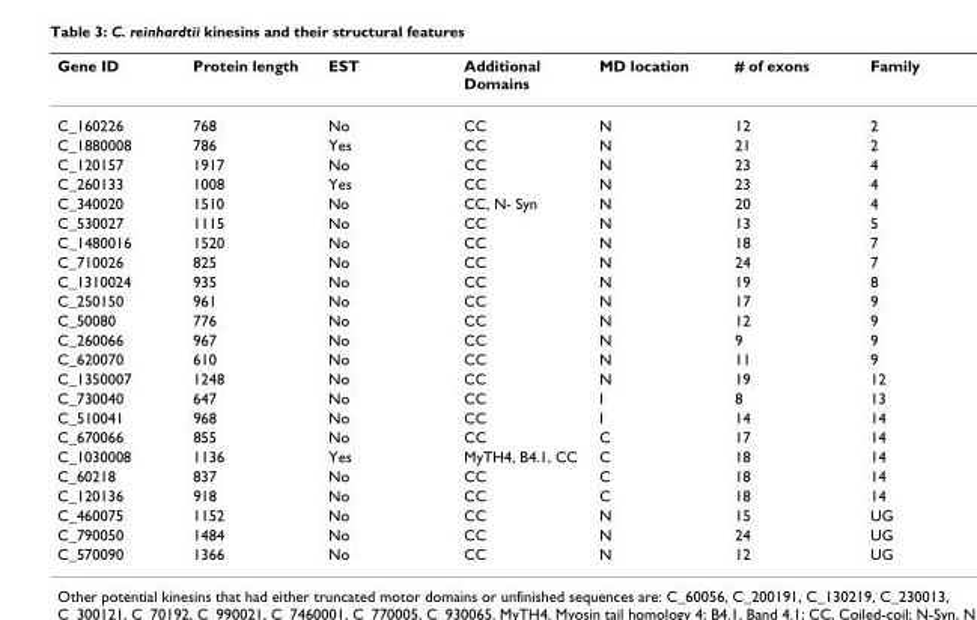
<table><thead><tr><td>Gene ID</td><td>Protein length</td><td>EST</td><td>Additional Domains</td><td>MD location</td><td># of exons</td><td>Family</td></tr></thead><tbody><tr><td>C_160226</td><td>768</td><td>No</td><td>CC</td><td>N</td><td>12</td><td>2</td></tr><tr><td>C_1880008</td><td>786</td><td>Yes</td><td>CC</td><td>N</td><td>21</td><td>2</td></tr><tr><td>C_120157</td><td>1917</td><td>No</td><td>CC</td><td>N</td><td>23</td><td>4</td></tr><tr><td>C_260133</td><td>1008</td><td>Yes</td><td>CC</td><td>N</td><td>23</td><td>4</td></tr><tr><td>C_340020</td><td>1510</td><td>No</td><td>CC, N- Syn</td><td>N</td><td>20</td><td>4</td></tr><tr><td>C_530027</td><td>1115</td><td>No</td><td>CC</td><td>N</td><td>13</td><td>5</td></tr><tr><td>C_1480016</td><td>1520</td><td>No</td><td>CC</td><td>N</td><td>18</td><td>7</td></tr><tr><td>C_710026</td><td>825</td><td>No</td><td>CC</td><td>N</td><td>24</td><td>7</td></tr><tr><td>C_1310024</td><td>935</td><td>No</td><td>CC</td><td>N</td><td>19</td><td>8</td></tr><tr><td>C_250150</td><td>961</td><td>No</td><td>CC</td><td>N</td><td>17</td><td>9</td></tr><tr><td>C_50080</td><td>776</td><td>No</td><td>CC</td><td>N</td><td>12</td><td>9</td></tr><tr><td>C_260066</td><td>967</td><td>No</td><td>CC</td><td>N</td><td>9</td><td>9</td></tr><tr><td>C_620070</td><td>610</td><td>No</td><td>CC</td><td>N</td><td>11</td><td>9</td></tr><tr><td>C_1350007</td><td>1248</td><td>No</td><td>CC</td><td>N</td><td>19</td><td>12</td></tr><tr><td>C_730040</td><td>647</td><td>No</td><td>CC</td><td>I</td><td>8</td><td>13</td></tr><tr><td>C_510041</td><td>968</td><td>No</td><td>CC</td><td>I</td><td>14</td><td>14</td></tr><tr><td>C_670066</td><td>855</td><td>No</td><td>CC</td><td>C</td><td>17</td><td>14</td></tr><tr><td>C_1030008</td><td>1136</td><td>Yes</td><td>MyTH4, B4.1, CC</td><td>C</td><td>18</td><td>14</td></tr><tr><td>C_60218</td><td>837</td><td>No</td><td>CC</td><td>C</td><td>18</td><td>14</td></tr><tr><td>C_120136</td><td>918</td><td>No</td><td>CC</td><td>C</td><td>18</td><td>14</td></tr><tr><td>C_460075</td><td>1152</td><td>No</td><td>CC</td><td>N</td><td>15</td><td>UG</td></tr><tr><td>C_790050</td><td>1484</td><td>No</td><td>CC</td><td>N</td><td>24</td><td>UG</td></tr><tr><td>C_570090</td><td>1366</td><td>No</td><td>CC</td><td>N</td><td>12</td><td>UG</td></tr></tbody></table>